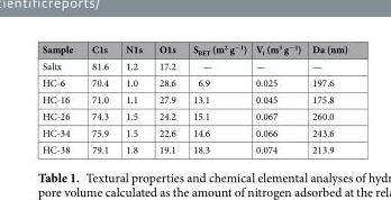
<table><thead><tr><td>Sample</td><td>C1s</td><td>N1s</td><td>O1s</td><td>S<sub>BET</sub> (m<sup>2</sup> g<sup>−1</sup>)</td><td>V<sub>t</sub> (m<sup>3</sup> g<sup>−1</sup>)</td><td>Da (nm)</td></tr></thead><tbody><tr><td>Salix</td><td>81.6</td><td>1.2</td><td>17.2</td><td>—</td><td>—</td><td>—</td></tr><tr><td>HC-6</td><td>70.4</td><td>1.0</td><td>28.6</td><td>6.9</td><td>0.025</td><td>197.6</td></tr><tr><td>HC-16</td><td>71.0</td><td>1.1</td><td>27.9</td><td>13.1</td><td>0.045</td><td>175.8</td></tr><tr><td>HC-26</td><td>74.3</td><td>1.5</td><td>24.2</td><td>15.1</td><td>0.067</td><td>260.0</td></tr><tr><td>HC-34</td><td>75.9</td><td>1.5</td><td>22.6</td><td>14.6</td><td>0.066</td><td>243.6</td></tr><tr><td>HC-38</td><td>79.1</td><td>1.8</td><td>19.1</td><td>18.3</td><td>0.074</td><td>213.9</td></tr></tbody></table>